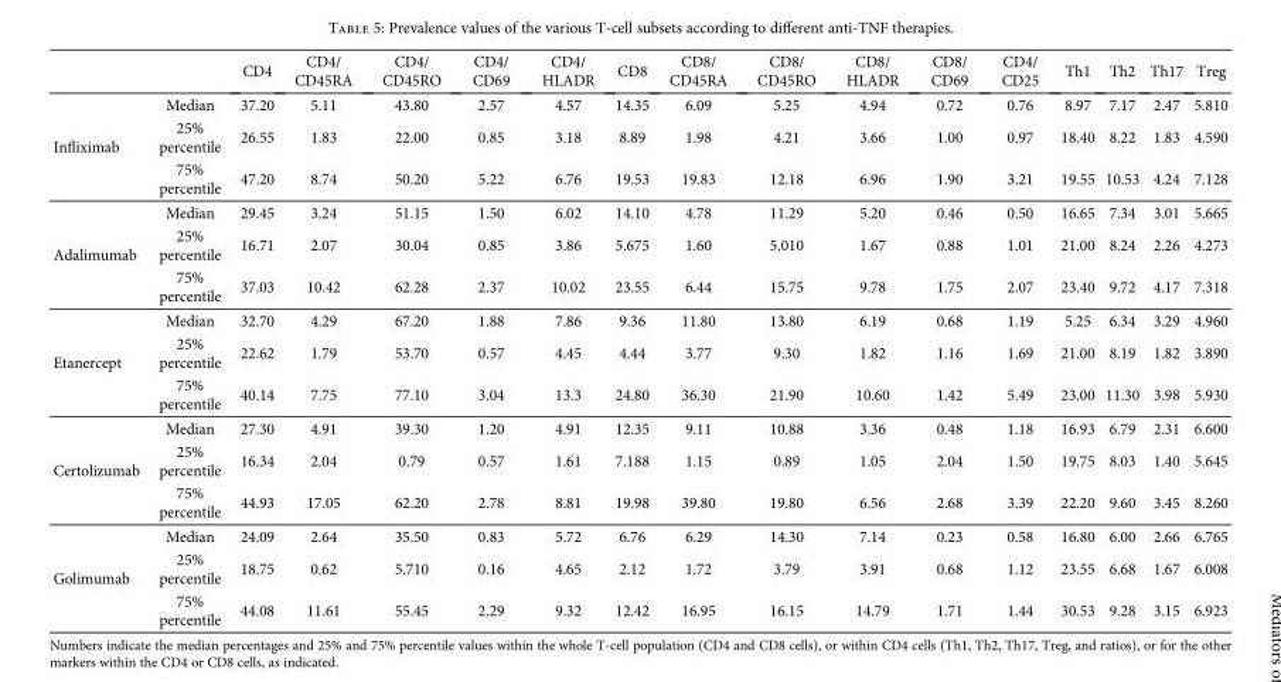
<table><thead><tr><td></td><td></td><td>CD4</td><td>CD4/ CD45RA</td><td>CD4/ CD45RO</td><td>CD4/ CD69</td><td>CD4/ HLADR</td><td>CD8</td><td>CD8/ CD45RA</td><td>CD8/ CD45RO</td><td>CD8/ HLADR</td><td>CD8/ CD69</td><td>CD4/ CD25</td><td>Th1</td><td>Th2</td><td>Th17</td><td>Treg</td></tr></thead><tbody><tr><td rowspan="3">Infliximab</td><td>Median</td><td>37.20</td><td>5.11</td><td>43.80</td><td>2.57</td><td>4.57</td><td>14.35</td><td>6.09</td><td>5.25</td><td>4.94</td><td>0.72</td><td>0.76</td><td>8.97</td><td>7.17</td><td>2.47</td><td>5.810</td></tr><tr><td>25% percentile</td><td>26.55</td><td>1.83</td><td>22.00</td><td>0.85</td><td>3.18</td><td>8.89</td><td>1.98</td><td>4.21</td><td>3.66</td><td>1.00</td><td>0.97</td><td>18.40</td><td>8.22</td><td>1.83</td><td>4.590</td></tr><tr><td>75% percentile</td><td>47.20</td><td>8.74</td><td>50.20</td><td>5.22</td><td>6.76</td><td>19.53</td><td>19.83</td><td>12.18</td><td>6.96</td><td>1.90</td><td>3.21</td><td>19.55</td><td>10.53</td><td>4.24</td><td>7.128</td></tr><tr><td rowspan="3">Adalimumab</td><td>Median</td><td>29.45</td><td>3.24</td><td>51.15</td><td>1.50</td><td>6.02</td><td>14.10</td><td>4.78</td><td>11.29</td><td>5.20</td><td>0.46</td><td>0.50</td><td>16.65</td><td>7.34</td><td>3.01</td><td>5.665</td></tr><tr><td>25% percentile</td><td>16.71</td><td>2.07</td><td>30.04</td><td>0.85</td><td>3.86</td><td>5.675</td><td>1.60</td><td>5.010</td><td>1.67</td><td>0.88</td><td>1.01</td><td>21.00</td><td>8.24</td><td>2.26</td><td>4.273</td></tr><tr><td>75% percentile</td><td>37.03</td><td>10.42</td><td>62.28</td><td>2.37</td><td>10.02</td><td>23.55</td><td>6.44</td><td>15.75</td><td>9.78</td><td>1.75</td><td>2.07</td><td>23.40</td><td>9.72</td><td>4.17</td><td>7.318</td></tr><tr><td rowspan="3">Etanercept</td><td>Median</td><td>32.70</td><td>4.29</td><td>67.20</td><td>1.88</td><td>7.86</td><td>9.36</td><td>11.80</td><td>13.80</td><td>6.19</td><td>0.68</td><td>1.19</td><td>5.25</td><td>6.34</td><td>3.29</td><td>4.960</td></tr><tr><td>25% percentile</td><td>22.62</td><td>1.79</td><td>53.70</td><td>0.57</td><td>4.45</td><td>4.44</td><td>3.77</td><td>9.30</td><td>1.82</td><td>1.16</td><td>1.69</td><td>21.00</td><td>8.19</td><td>1.82</td><td>3.890</td></tr><tr><td>75% percentile</td><td>40.14</td><td>7.75</td><td>77.10</td><td>3.04</td><td>13.3</td><td>24.80</td><td>36.30</td><td>21.90</td><td>10.60</td><td>1.42</td><td>5.49</td><td>23.00</td><td>11.30</td><td>3.98</td><td>5.930</td></tr><tr><td rowspan="3">Certolizumab</td><td>Median</td><td>27.30</td><td>4.91</td><td>39.30</td><td>1.20</td><td>4.91</td><td>12.35</td><td>9.11</td><td>10.88</td><td>3.36</td><td>0.48</td><td>1.18</td><td>16.93</td><td>6.79</td><td>2.31</td><td>6.600</td></tr><tr><td>25% percentile</td><td>16.34</td><td>2.04</td><td>0.79</td><td>0.57</td><td>1.61</td><td>7.188</td><td>1.15</td><td>0.89</td><td>1.05</td><td>2.04</td><td>1.50</td><td>19.75</td><td>8.03</td><td>1.40</td><td>5.645</td></tr><tr><td>75% percentile</td><td>44.93</td><td>17.05</td><td>62.20</td><td>2.78</td><td>8.81</td><td>19.98</td><td>39.80</td><td>19.80</td><td>6.56</td><td>2.68</td><td>3.39</td><td>22.20</td><td>9.60</td><td>3.45</td><td>8.260</td></tr><tr><td rowspan="3">Golimumab</td><td>Median</td><td>24.09</td><td>2.64</td><td>35.50</td><td>0.83</td><td>5.72</td><td>6.76</td><td>6.29</td><td>14.30</td><td>7.14</td><td>0.23</td><td>0.58</td><td>16.80</td><td>6.00</td><td>2.66</td><td>6.765</td></tr><tr><td>25% percentile</td><td>18.75</td><td>0.62</td><td>5.710</td><td>0.16</td><td>4.65</td><td>2.12</td><td>1.72</td><td>3.79</td><td>3.91</td><td>0.68</td><td>1.12</td><td>23.55</td><td>6.68</td><td>1.67</td><td>6.008</td></tr><tr><td>75% percentile</td><td>44.08</td><td>11.61</td><td>55.45</td><td>2.29</td><td>9.32</td><td>12.42</td><td>16.95</td><td>16.15</td><td>14.79</td><td>1.71</td><td>1.44</td><td>30.53</td><td>9.28</td><td>3.15</td><td>6.923</td></tr></tbody></table>